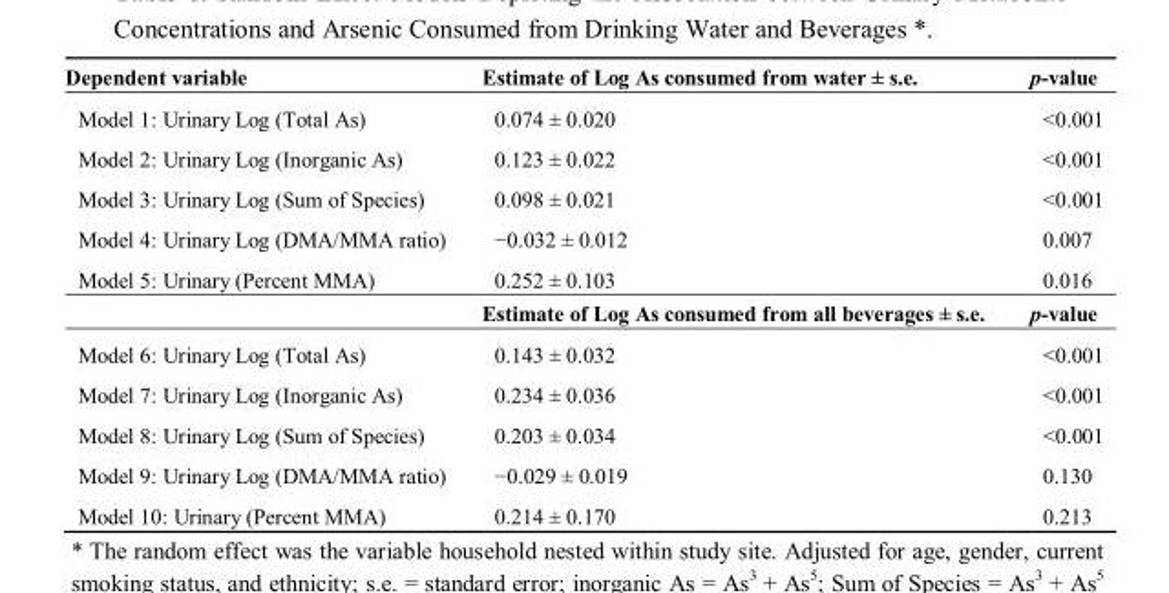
<table><thead><tr><td>Dependent variable</td><td>Estimate of Log As consumed from water ± s.e.</td><td>p-value</td></tr></thead><tbody><tr><td>Model 1: Urinary Log (Total As)</td><td>0.074 ± 0.020</td><td>&lt;0.001</td></tr><tr><td>Model 2: Urinary Log (Inorganic As)</td><td>0.123 ± 0.022</td><td>&lt;0.001</td></tr><tr><td>Model 3: Urinary Log (Sum of Species)</td><td>0.098 ± 0.021</td><td>&lt;0.001</td></tr><tr><td>Model 4: Urinary Log (DMA/MMA ratio)</td><td>−0.032 ± 0.012</td><td>0.007</td></tr><tr><td rowspan="2">Model 5: Urinary (Percent MMA)</td><td>0.252 ± 0.103</td><td>0.016</td></tr><tr><td>Estimate of Log As consumed from all beverages ± s.e.</td><td>p-value</td></tr><tr><td>Model 6: Urinary Log (Total As)</td><td>0.143 ± 0.032</td><td>&lt;0.001</td></tr><tr><td>Model 7: Urinary Log (Inorganic As)</td><td>0.234 ± 0.036</td><td>&lt;0.001</td></tr><tr><td>Model 8: Urinary Log (Sum of Species)</td><td>0.203 ± 0.034</td><td>&lt;0.001</td></tr><tr><td>Model 9: Urinary Log (DMA/MMA ratio)</td><td>−0.029 ± 0.019</td><td>0.130</td></tr><tr><td>Model 10: Urinary (Percent MMA)</td><td>0.214 ± 0.170</td><td>0.213</td></tr></tbody></table>